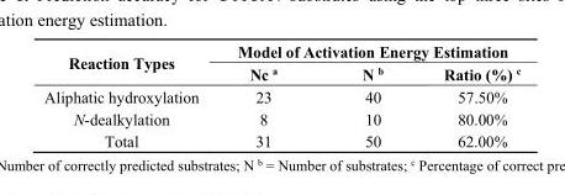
<table><thead><tr><td rowspan="2">Reaction Types</td><td colspan="3">Model of Activation Energy Estimation</td></tr><tr><td>Nc <sup>a</sup></td><td>N <sup>b</sup></td><td>Ratio (%) <sup>c</sup></td></tr></thead><tbody><tr><td>Aliphatic hydroxylation</td><td>23</td><td>40</td><td>57.50%</td></tr><tr><td>N-dealkylation</td><td>8</td><td>10</td><td>80.00%</td></tr><tr><td>Total</td><td>31</td><td>50</td><td>62.00%</td></tr></tbody></table>